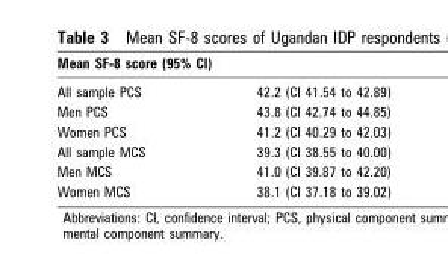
<table><thead><tr><td colspan="2">Mean SF-8 score (95% CI)</td></tr><tr><td>All sample PCS</td><td>42.2 (CI 41.54 to 42.89)</td></tr></thead><tbody><tr><td>Men PCS</td><td>43.8 (CI 42.74 to 44.85)</td></tr><tr><td>Women PCS</td><td>41.2 (CI 40.29 to 42.03)</td></tr><tr><td>All sample MCS</td><td>39.3 (CI 38.55 to 40.00)</td></tr><tr><td>Men MCS</td><td>41.0 (CI 39.87 to 42.20)</td></tr><tr><td>Women MCS</td><td>38.1 (CI 37.18 to 39.02)</td></tr></tbody></table>